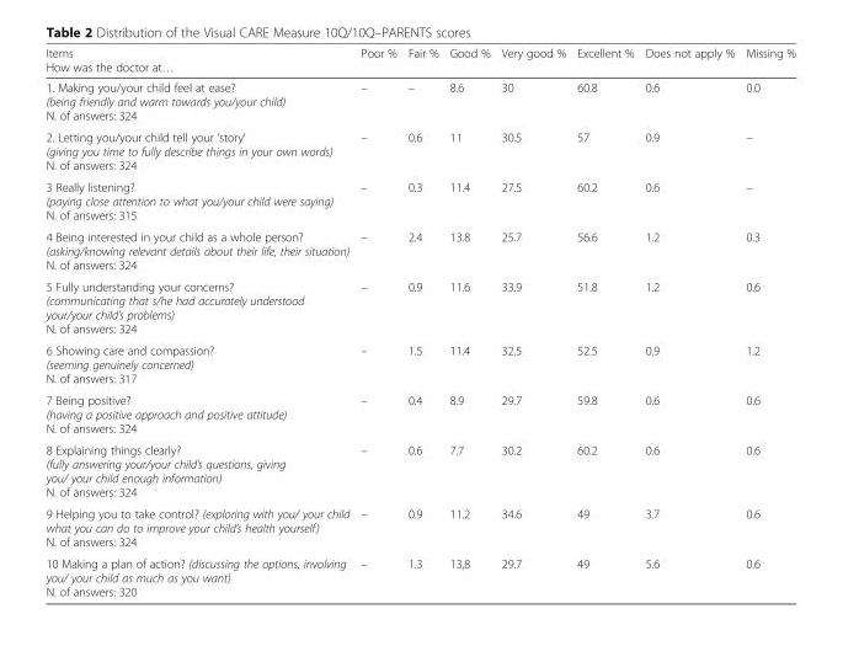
<table><thead><tr><td>Items How was the doctor at…</td><td>Poor %</td><td>Fair %</td><td>Good %</td><td>Very good %</td><td>Excellent %</td><td>Does not apply %</td><td>Missing %</td></tr></thead><tbody><tr><td>1. Making you/your child feel at ease? (being friendly and warm towards you/your child) N. of answers: 324</td><td>–</td><td>–</td><td>8.6</td><td>30</td><td>60.8</td><td>0.6</td><td>0.0</td></tr><tr><td>2. Letting you/your child tell your ‘story’ (giving you time to fully describe things in your own words) N. of answers: 324</td><td>–</td><td>0.6</td><td>11</td><td>30.5</td><td>57</td><td>0.9</td><td>–</td></tr><tr><td>3 Really listening? (paying close attention to what you/your child were saying) N. of answers: 315</td><td>–</td><td>0.3</td><td>11.4</td><td>27.5</td><td>60.2</td><td>0.6</td><td>–</td></tr><tr><td>4 Being interested in your child as a whole person? (asking/knowing relevant details about their life, their situation) N. of answers: 324</td><td>–</td><td>2.4</td><td>13.8</td><td>25.7</td><td>56.6</td><td>1.2</td><td>0.3</td></tr><tr><td>5 Fully understanding your concerns? (communicating that s/he had accurately understood your/your child’s problems) N. of answers: 324</td><td>–</td><td>0.9</td><td>11.6</td><td>33.9</td><td>51.8</td><td>1.2</td><td>0.6</td></tr><tr><td>6 Showing care and compassion? (seeming genuinely concerned) N. of answers: 317</td><td>–</td><td>1.5</td><td>11.4</td><td>32.5</td><td>52.5</td><td>0.9</td><td>1.2</td></tr><tr><td>7 Being positive? (having a positive approach and positive attitude) N. of answers: 324</td><td>–</td><td>0.4</td><td>8.9</td><td>29.7</td><td>59.8</td><td>0.6</td><td>0.6</td></tr><tr><td>8 Explaining things clearly? (fully answering your/your child’s questions, giving you/ your child enough information) N. of answers: 324</td><td>–</td><td>0.6</td><td>7.7</td><td>30.2</td><td>60.2</td><td>0.6</td><td>0.6</td></tr><tr><td>9 Helping you to take control? (exploring with you/ your child what you can do to improve your child’s health yourself) N. of answers: 324</td><td>–</td><td>0.9</td><td>11.2</td><td>34.6</td><td>49</td><td>3.7</td><td>0.6</td></tr><tr><td>10 Making a plan of action? (discussing the options, involving you/ your child as much as you want) N. of answers: 320</td><td>–</td><td>1.3</td><td>13,8</td><td>29.7</td><td>49</td><td>5.6</td><td>0.6</td></tr></tbody></table>